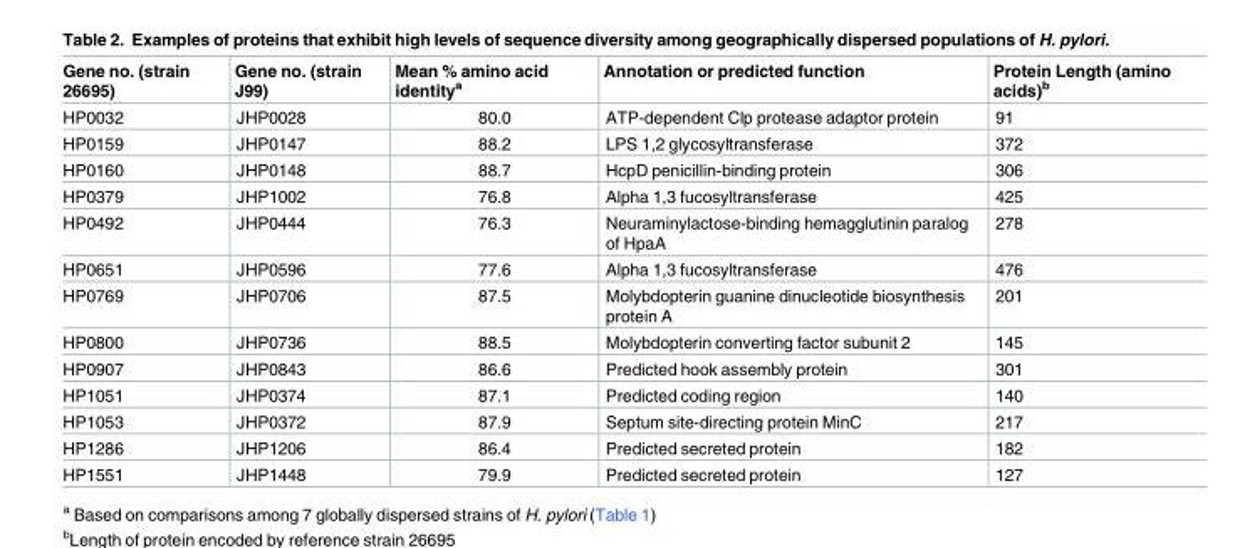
<table><thead><tr><td>Gene no. (strain 26695)</td><td>Gene no. (strain J99)</td><td>Mean % amino acid identity<sup>a</sup></td><td>Annotation or predicted function</td><td>Protein Length (amino acids)<sup>b</sup></td></tr></thead><tbody><tr><td>HP0032</td><td>JHP0028</td><td>80.0</td><td>ATP-dependent Clp protease adaptor protein</td><td>91</td></tr><tr><td>HP0159</td><td>JHP0147</td><td>88.2</td><td>LPS 1,2 glycosyltransferase</td><td>372</td></tr><tr><td>HP0160</td><td>JHP0148</td><td>88.7</td><td>HcpD penicillin-binding protein</td><td>306</td></tr><tr><td>HP0379</td><td>JHP1002</td><td>76.8</td><td>Alpha 1,3 fucosyltransferase</td><td>425</td></tr><tr><td>HP0492</td><td>JHP0444</td><td>76.3</td><td>Neuraminylactose-binding hemagglutinin paralog of HpaA</td><td>278</td></tr><tr><td>HP0651</td><td>JHP0596</td><td>77.6</td><td>Alpha 1,3 fucosyltransferase</td><td>476</td></tr><tr><td>HP0769</td><td>JHP0706</td><td>87.5</td><td>Molybdopterin guanine dinucleotide biosynthesis protein A</td><td>201</td></tr><tr><td>HP0800</td><td>JHP0736</td><td>88.5</td><td>Molybdopterin converting factor subunit 2</td><td>145</td></tr><tr><td>HP0907</td><td>JHP0843</td><td>86.6</td><td>Predicted hook assembly protein</td><td>301</td></tr><tr><td>HP1051</td><td>JHP0374</td><td>87.1</td><td>Predicted coding region</td><td>140</td></tr><tr><td>HP1053</td><td>JHP0372</td><td>87.9</td><td>Septum site-directing protein MinC</td><td>217</td></tr><tr><td>HP1286</td><td>JHP1206</td><td>86.4</td><td>Predicted secreted protein</td><td>182</td></tr><tr><td>HP1551</td><td>JHP1448</td><td>79.9</td><td>Predicted secreted protein</td><td>127</td></tr></tbody></table>